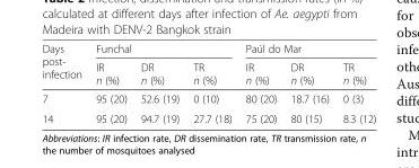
<table><thead><tr><td rowspan="2">Days post- infection</td><td colspan="3">Funchal</td><td colspan="3">Paúl do Mar</td></tr><tr><td>IR n (%)</td><td>DR n (%)</td><td>TR n (%)</td><td>IR n (%)</td><td>DR n (%)</td><td>TR n (%)</td></tr></thead><tbody><tr><td>7</td><td>95 (20)</td><td>52.6 (19)</td><td>0 (10)</td><td>80 (20)</td><td>18.7 (16)</td><td>0 (3)</td></tr><tr><td>14</td><td>95 (20)</td><td>94.7 (19)</td><td>27.7 (18)</td><td>75 (20)</td><td>80 (15)</td><td>8.3 (12)</td></tr></tbody></table>